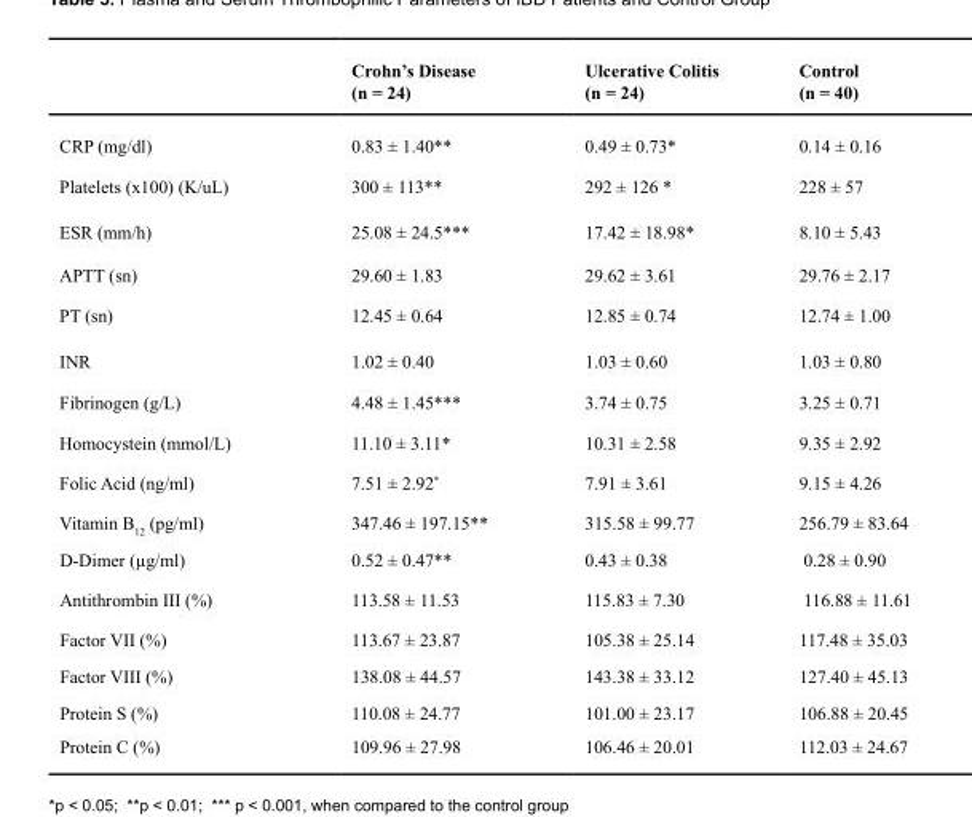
<table><thead><tr><td></td><td>Crohn’s Disease (n = 24)</td><td>Ulcerative Colitis (n = 24)</td><td>Control (n = 40)</td></tr></thead><tbody><tr><td>CRP (mg/dl)</td><td>0.83 ± 1.40**</td><td>0.49 ± 0.73*</td><td>0.14 ± 0.16</td></tr><tr><td>Platelets (x100) (K/uL)</td><td>300 ± 113**</td><td>292 ± 126 *</td><td>228 ± 57</td></tr><tr><td>ESR (mm/h)</td><td>25.08 ± 24.5***</td><td>17.42 ± 18.98*</td><td>8.10 ± 5.43</td></tr><tr><td>APTT (sn)</td><td>29.60 ± 1.83</td><td>29.62 ± 3.61</td><td>29.76 ± 2.17</td></tr><tr><td>PT (sn)</td><td>12.45 ± 0.64</td><td>12.85 ± 0.74</td><td>12.74 ± 1.00</td></tr><tr><td>INR</td><td>1.02 ± 0.40</td><td>1.03 ± 0.60</td><td>1.03 ± 0.80</td></tr><tr><td>Fibrinogen (g/L)</td><td>4.48 ± 1.45***</td><td>3.74 ± 0.75</td><td>3.25 ± 0.71</td></tr><tr><td>Homocystein (mmol/L)</td><td>11.10 ± 3.11*</td><td>10.31 ± 2.58</td><td>9.35 ± 2.92</td></tr><tr><td>Folic Acid (ng/ml)</td><td>7.51 ± 2.92*</td><td>7.91 ± 3.61</td><td>9.15 ± 4.26</td></tr><tr><td>Vitamin B<sub>12</sub> (pg/ml)</td><td>347.46 ± 197.15**</td><td>315.58 ± 99.77</td><td>256.79 ± 83.64</td></tr><tr><td>D-Dimer (µg/ml)</td><td>0.52 ± 0.47**</td><td>0.43 ± 0.38</td><td>0.28 ± 0.90</td></tr><tr><td>Antithrombin III (%)</td><td>113.58 ± 11.53</td><td>115.83 ± 7.30</td><td>116.88 ± 11.61</td></tr><tr><td>Factor VII (%)</td><td>113.67 ± 23.87</td><td>105.38 ± 25.14</td><td>117.48 ± 35.03</td></tr><tr><td>Factor VIII (%)</td><td>138.08 ± 44.57</td><td>143.38 ± 33.12</td><td>127.40 ± 45.13</td></tr><tr><td>Protein S (%)</td><td>110.08 ± 24.77</td><td>101.00 ± 23.17</td><td>106.88 ± 20.45</td></tr><tr><td>Protein C (%)</td><td>109.96 ± 27.98</td><td>106.46 ± 20.01</td><td>112.03 ± 24.67</td></tr></tbody></table>